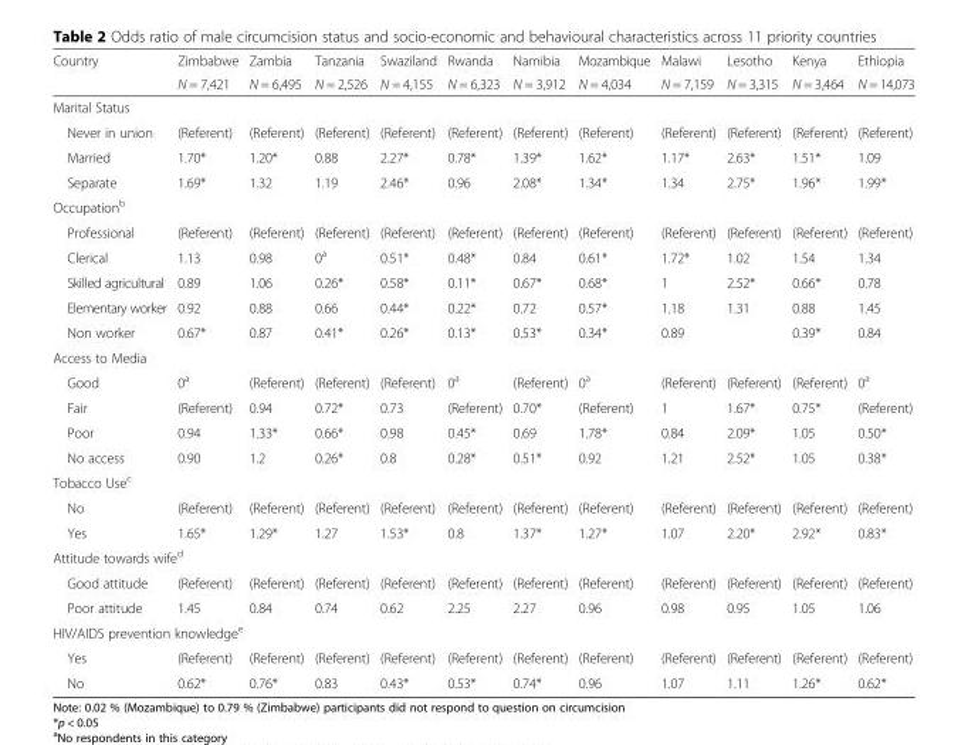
<table><thead><tr><td rowspan="2">Country</td><td rowspan="2">Zimbabwe N = 7,421</td><td rowspan="2">Zambia N = 6,495</td><td rowspan="2">Tanzania N = 2,526</td><td rowspan="2">Swaziland N = 4,155</td><td rowspan="2">Rwanda N = 6,323</td><td rowspan="2">Namibia N = 3,912</td><td rowspan="2">Mozambique N = 4,034</td><td rowspan="2">Malawi N = 7,159</td><td rowspan="2">Lesotho N = 3,315</td><td rowspan="2">Kenya N = 3,464</td><td rowspan="2">Ethiopia N = 14,073</td></tr><tr></tr></thead><tbody><tr><td colspan="12">Marital Status</td></tr><tr><td>Never in union</td><td>(Referent)</td><td>(Referent)</td><td>(Referent)</td><td>(Referent)</td><td>(Referent)</td><td>(Referent)</td><td>(Referent)</td><td>(Referent)</td><td>(Referent)</td><td>(Referent)</td><td>(Referent)</td></tr><tr><td>Married</td><td>1.70*</td><td>1.20*</td><td>0.88</td><td>2.27*</td><td>0.78*</td><td>1.39*</td><td>1.62*</td><td>1.17*</td><td>2.63*</td><td>1.51*</td><td>1.09</td></tr><tr><td>Separate</td><td>1.69*</td><td>1.32</td><td>1.19</td><td>2.46*</td><td>0.96</td><td>2.08*</td><td>1.34*</td><td>1.34</td><td>2.75*</td><td>1.96*</td><td>1.99*</td></tr><tr><td colspan="12">Occupation<sup>b</sup></td></tr><tr><td>Professional</td><td>(Referent)</td><td>(Referent)</td><td>(Referent)</td><td>(Referent)</td><td>(Referent)</td><td>(Referent)</td><td>(Referent)</td><td>(Referent)</td><td>(Referent)</td><td>(Referent)</td><td>(Referent)</td></tr><tr><td>Clerical</td><td>1.13</td><td>0.98</td><td>0<sup>a</sup></td><td>0.51*</td><td>0.48*</td><td>0.84</td><td>0.61*</td><td>1.72*</td><td>1.02</td><td>1.54</td><td>1.34</td></tr><tr><td>Skilled agricultural</td><td>0.89</td><td>1.06</td><td>0.26*</td><td>0.58*</td><td>0.11*</td><td>0.67*</td><td>0.68*</td><td>1</td><td>2.52*</td><td>0.66*</td><td>0.78</td></tr><tr><td>Elementary worker</td><td>0.92</td><td>0.88</td><td>0.66</td><td>0.44*</td><td>0.22*</td><td>0.72</td><td>0.57*</td><td>1.18</td><td>1.31</td><td>0.88</td><td>1.45</td></tr><tr><td>Non worker</td><td>0.67*</td><td>0.87</td><td>0.41*</td><td>0.26*</td><td>0.13*</td><td>0.53*</td><td>0.34*</td><td>0.89</td><td></td><td>0.39*</td><td>0.84</td></tr><tr><td colspan="12">Access to Media</td></tr><tr><td>Good</td><td>0<sup>a</sup></td><td>(Referent)</td><td>(Referent)</td><td>(Referent)</td><td>0<sup>a</sup></td><td>(Referent)</td><td>0<sup>a</sup></td><td>(Referent)</td><td>(Referent)</td><td>(Referent)</td><td>0<sup>a</sup></td></tr><tr><td>Fair</td><td>(Referent)</td><td>0.94</td><td>0.72*</td><td>0.73</td><td>(Referent)</td><td>0.70*</td><td>(Referent)</td><td>1</td><td>1.67*</td><td>0.75*</td><td>(Referent)</td></tr><tr><td>Poor</td><td>0.94</td><td>1.33*</td><td>0.66*</td><td>0.98</td><td>0.45*</td><td>0.69</td><td>1.78*</td><td>0.84</td><td>2.09*</td><td>1.05</td><td>0.50*</td></tr><tr><td>No access</td><td>0.90</td><td>1.2</td><td>0.26*</td><td>0.8</td><td>0.28*</td><td>0.51*</td><td>0.92</td><td>1.21</td><td>2.52*</td><td>1.05</td><td>0.38*</td></tr><tr><td colspan="12">Tobacco Use<sup>c</sup></td></tr><tr><td>No</td><td>(Referent)</td><td>(Referent)</td><td>(Referent)</td><td>(Referent)</td><td>(Referent)</td><td>(Referent)</td><td>(Referent)</td><td>(Referent)</td><td>(Referent)</td><td>(Referent)</td><td>(Referent)</td></tr><tr><td>Yes</td><td>1.65*</td><td>1.29*</td><td>1.27</td><td>1.53*</td><td>0.8</td><td>1.37*</td><td>1.27*</td><td>1.07</td><td>2.20*</td><td>2.92*</td><td>0.83*</td></tr><tr><td colspan="12">Attitude towards wife<sup>d</sup></td></tr><tr><td>Good attitude</td><td>(Referent)</td><td>(Referent)</td><td>(Referent)</td><td>(Referent)</td><td>(Referent)</td><td>(Referent)</td><td>(Referent)</td><td>(Referent)</td><td>(Referent)</td><td>(Referent)</td><td>(Referent)</td></tr><tr><td>Poor attitude</td><td>1.45</td><td>0.84</td><td>0.74</td><td>0.62</td><td>2.25</td><td>2.27</td><td>0.96</td><td>0.98</td><td>0.95</td><td>1.05</td><td>1.06</td></tr><tr><td colspan="12">HIV/AIDS prevention knowledge<sup>e</sup></td></tr><tr><td>Yes</td><td>(Referent)</td><td>(Referent)</td><td>(Referent)</td><td>(Referent)</td><td>(Referent)</td><td>(Referent)</td><td>(Referent)</td><td>(Referent)</td><td>(Referent)</td><td>(Referent)</td><td>(Referent)</td></tr><tr><td>No</td><td>0.62*</td><td>0.76*</td><td>0.83</td><td>0.43*</td><td>0.53*</td><td>0.74*</td><td>0.96</td><td>1.07</td><td>1.11</td><td>1.26*</td><td>0.62*</td></tr></tbody></table>